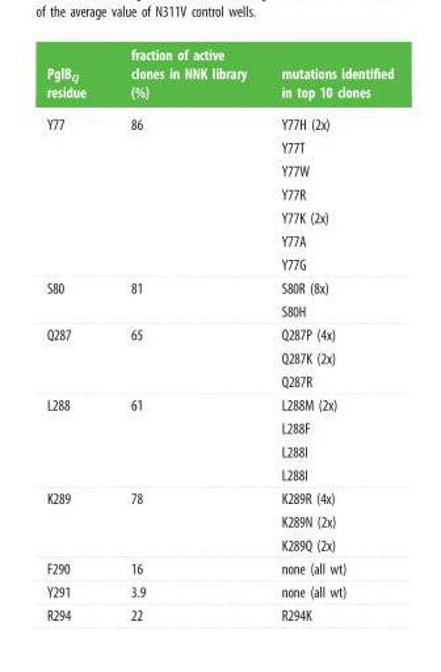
<table><thead><tr><td>PglB<sub>Cj</sub> residue</td><td>fraction of active clones in NNK library (%)</td><td>mutations identified in top 10 clones</td></tr></thead><tbody><tr><td>Y77</td><td>86</td><td>Y77H (2x) Y77T Y77W Y77R Y77K (2x) Y77A Y77G</td></tr><tr><td>S80</td><td>81</td><td>S80R (8x) S80H</td></tr><tr><td>Q287</td><td>65</td><td>Q287P (4x) Q287K (2x) Q287R</td></tr><tr><td>L288</td><td>61</td><td>L288M (2x) L288F L288I L288I</td></tr><tr><td>K289</td><td>78</td><td>K289R (4x) K289N (2x) K289Q (2x)</td></tr><tr><td>F290</td><td>16</td><td>none (all wt)</td></tr><tr><td>Y291</td><td>3.9</td><td>none (all wt)</td></tr><tr><td>R294</td><td>22</td><td>R294K</td></tr></tbody></table>